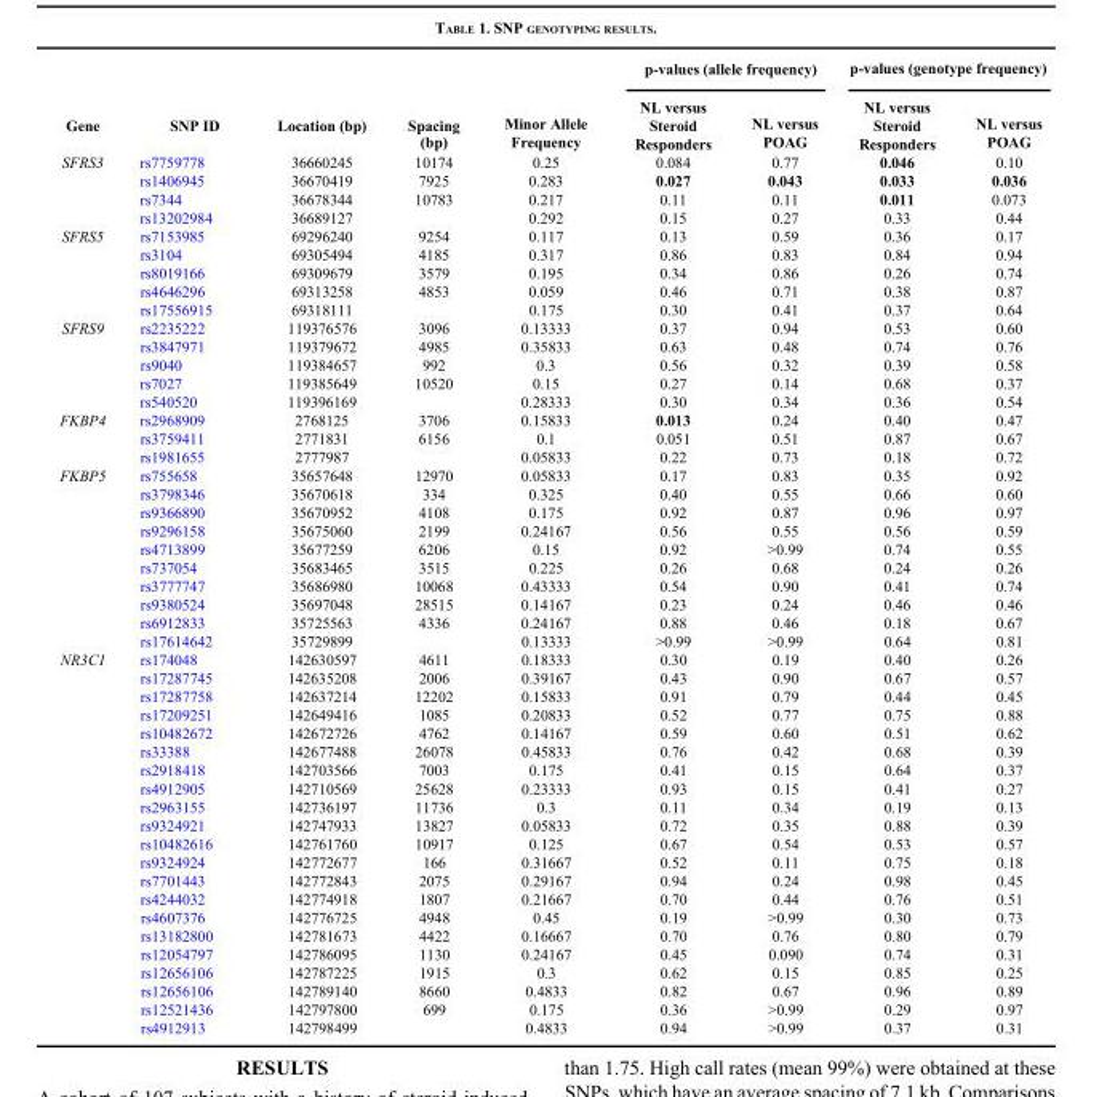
<table><thead><tr><td rowspan="2">Gene</td><td rowspan="2">SNP ID</td><td rowspan="2">Location (bp)</td><td rowspan="2">Spacing (bp)</td><td rowspan="2">Minor Allele Frequency</td><td colspan="2">p-values (allele frequency)</td><td colspan="2">p-values (genotype frequency)</td></tr><tr><td>NL versus Steroid Responders</td><td>NL versus POAG</td><td>NL versus Steroid Responders</td><td>NL versus POAG</td></tr></thead><tbody><tr><td rowspan="4">SFRS3</td><td>rs7759778</td><td>36660245</td><td>10174</td><td>0.25</td><td>0.084</td><td>0.77</td><td>0.046</td><td>0.10</td></tr><tr><td>rs1406945</td><td>36670419</td><td>7925</td><td>0.283</td><td>0.027</td><td>0.043</td><td>0.033</td><td>0.036</td></tr><tr><td>rs7344</td><td>36678344</td><td>10783</td><td>0.217</td><td>0.11</td><td>0.11</td><td>0.011</td><td>0.073</td></tr><tr><td>rs13202984</td><td>36689127</td><td></td><td>0.292</td><td>0.15</td><td>0.27</td><td>0.33</td><td>0.44</td></tr><tr><td rowspan="5">SFRS5</td><td>rs7153985</td><td>69296240</td><td>9254</td><td>0.117</td><td>0.13</td><td>0.59</td><td>0.36</td><td>0.17</td></tr><tr><td>rs3104</td><td>69305494</td><td>4185</td><td>0.317</td><td>0.86</td><td>0.83</td><td>0.84</td><td>0.94</td></tr><tr><td>rs8019166</td><td>69309679</td><td>3579</td><td>0.195</td><td>0.34</td><td>0.86</td><td>0.26</td><td>0.74</td></tr><tr><td>rs4646296</td><td>69313258</td><td>4853</td><td>0.059</td><td>0.46</td><td>0.71</td><td>0.38</td><td>0.87</td></tr><tr><td>rs17556915</td><td>69318111</td><td></td><td>0.175</td><td>0.30</td><td>0.41</td><td>0.37</td><td>0.64</td></tr><tr><td rowspan="5">SFRS9</td><td>rs2235222</td><td>119376576</td><td>3096</td><td>0.13333</td><td>0.37</td><td>0.94</td><td>0.53</td><td>0.60</td></tr><tr><td>rs3847971</td><td>119379672</td><td>4985</td><td>0.35833</td><td>0.63</td><td>0.48</td><td>0.74</td><td>0.76</td></tr><tr><td>rs9040</td><td>119384657</td><td>992</td><td>0.3</td><td>0.56</td><td>0.32</td><td>0.39</td><td>0.58</td></tr><tr><td>rs7027</td><td>119385649</td><td>10520</td><td>0.15</td><td>0.27</td><td>0.14</td><td>0.68</td><td>0.37</td></tr><tr><td>rs540520</td><td>119396169</td><td></td><td>0.28333</td><td>0.30</td><td>0.34</td><td>0.36</td><td>0.54</td></tr><tr><td rowspan="3">FKBP4</td><td>rs2968909</td><td>2768125</td><td>3706</td><td>0.15833</td><td>0.013</td><td>0.24</td><td>0.40</td><td>0.47</td></tr><tr><td>rs3759411</td><td>2771831</td><td>6156</td><td>0.1</td><td>0.051</td><td>0.51</td><td>0.87</td><td>0.67</td></tr><tr><td>rs1981655</td><td>2777987</td><td></td><td>0.05833</td><td>0.22</td><td>0.73</td><td>0.18</td><td>0.72</td></tr><tr><td rowspan="10">FKBP5</td><td>rs755658</td><td>35657648</td><td>12970</td><td>0.05833</td><td>0.17</td><td>0.83</td><td>0.35</td><td>0.92</td></tr><tr><td>rs3798346</td><td>35670618</td><td>334</td><td>0.325</td><td>0.40</td><td>0.55</td><td>0.66</td><td>0.60</td></tr><tr><td>rs9366890</td><td>35670952</td><td>4108</td><td>0.175</td><td>0.92</td><td>0.87</td><td>0.96</td><td>0.97</td></tr><tr><td>rs9296158</td><td>35675060</td><td>2199</td><td>0.24167</td><td>0.56</td><td>0.55</td><td>0.56</td><td>0.59</td></tr><tr><td>rs4713899</td><td>35677259</td><td>6206</td><td>0.15</td><td>0.92</td><td>&gt;0.99</td><td>0.74</td><td>0.55</td></tr><tr><td>rs737054</td><td>35683465</td><td>3515</td><td>0.225</td><td>0.26</td><td>0.68</td><td>0.24</td><td>0.26</td></tr><tr><td>rs3777747</td><td>35686980</td><td>10068</td><td>0.43333</td><td>0.54</td><td>0.90</td><td>0.41</td><td>0.74</td></tr><tr><td>rs9380524</td><td>35697048</td><td>28515</td><td>0.14167</td><td>0.23</td><td>0.24</td><td>0.46</td><td>0.46</td></tr><tr><td>rs6912833</td><td>35725563</td><td>4336</td><td>0.24167</td><td>0.88</td><td>0.46</td><td>0.18</td><td>0.67</td></tr><tr><td>rs17614642</td><td>35729899</td><td></td><td>0.13333</td><td>&gt;0.99</td><td>&gt;0.99</td><td>0.64</td><td>0.81</td></tr><tr><td rowspan="21">NR3C1</td><td>rs174048</td><td>142630597</td><td>4611</td><td>0.18333</td><td>0.30</td><td>0.19</td><td>0.40</td><td>0.26</td></tr><tr><td>rs17287745</td><td>142635208</td><td>2006</td><td>0.39167</td><td>0.43</td><td>0.90</td><td>0.67</td><td>0.57</td></tr><tr><td>rs17287758</td><td>142637214</td><td>12202</td><td>0.15833</td><td>0.91</td><td>0.79</td><td>0.44</td><td>0.45</td></tr><tr><td>rs17209251</td><td>142649416</td><td>1085</td><td>0.20833</td><td>0.52</td><td>0.77</td><td>0.75</td><td>0.88</td></tr><tr><td>rs10482672</td><td>142672726</td><td>4762</td><td>0.14167</td><td>0.59</td><td>0.60</td><td>0.51</td><td>0.62</td></tr><tr><td>rs33388</td><td>142677488</td><td>26078</td><td>0.45833</td><td>0.76</td><td>0.42</td><td>0.68</td><td>0.39</td></tr><tr><td>rs2918418</td><td>142703566</td><td>7003</td><td>0.175</td><td>0.41</td><td>0.15</td><td>0.64</td><td>0.37</td></tr><tr><td>rs4912905</td><td>142710569</td><td>25628</td><td>0.23333</td><td>0.93</td><td>0.15</td><td>0.41</td><td>0.27</td></tr><tr><td>rs2963155</td><td>142736197</td><td>11736</td><td>0.3</td><td>0.11</td><td>0.34</td><td>0.19</td><td>0.13</td></tr><tr><td>rs9324921</td><td>142747933</td><td>13827</td><td>0.05833</td><td>0.72</td><td>0.35</td><td>0.88</td><td>0.39</td></tr><tr><td>rs10482616</td><td>142761760</td><td>10917</td><td>0.125</td><td>0.67</td><td>0.54</td><td>0.53</td><td>0.57</td></tr><tr><td>rs9324924</td><td>142772677</td><td>166</td><td>0.31667</td><td>0.52</td><td>0.11</td><td>0.75</td><td>0.18</td></tr><tr><td>rs7701443</td><td>142772843</td><td>2075</td><td>0.29167</td><td>0.94</td><td>0.24</td><td>0.98</td><td>0.45</td></tr><tr><td>rs4244032</td><td>142774918</td><td>1807</td><td>0.21667</td><td>0.70</td><td>0.44</td><td>0.76</td><td>0.51</td></tr><tr><td>rs4607376</td><td>142776725</td><td>4948</td><td>0.45</td><td>0.19</td><td>&gt;0.99</td><td>0.30</td><td>0.73</td></tr><tr><td>rs13182800</td><td>142781673</td><td>4422</td><td>0.16667</td><td>0.70</td><td>0.76</td><td>0.80</td><td>0.79</td></tr><tr><td>rs12054797</td><td>142786095</td><td>1130</td><td>0.24167</td><td>0.45</td><td>0.090</td><td>0.74</td><td>0.31</td></tr><tr><td>rs12656106</td><td>142787225</td><td>1915</td><td>0.3</td><td>0.62</td><td>0.15</td><td>0.85</td><td>0.25</td></tr><tr><td>rs12656106</td><td>142789140</td><td>8660</td><td>0.4833</td><td>0.82</td><td>0.67</td><td>0.96</td><td>0.89</td></tr><tr><td>rs12521436</td><td>142797800</td><td>699</td><td>0.175</td><td>0.36</td><td>&gt;0.99</td><td>0.29</td><td>0.97</td></tr><tr><td>rs4912913</td><td>142798499</td><td></td><td>0.4833</td><td>0.94</td><td>&gt;0.99</td><td>0.37</td><td>0.31</td></tr></tbody></table>